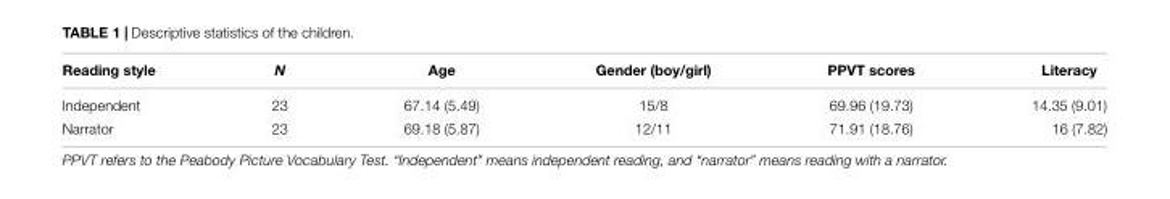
<table><thead><tr><td>Reading style</td><td>N</td><td>Age</td><td>Gender (boy/girl)</td><td>PPVT scores</td><td>Literacy</td></tr></thead><tbody><tr><td>Independent</td><td>23</td><td>67.14 (5.49)</td><td>15/8</td><td>69.96 (19.73)</td><td>14.35 (9.01)</td></tr><tr><td>Narrator</td><td>23</td><td>69.18 (5.87)</td><td>12/11</td><td>71.91 (18.76)</td><td>16 (7.82)</td></tr></tbody></table>